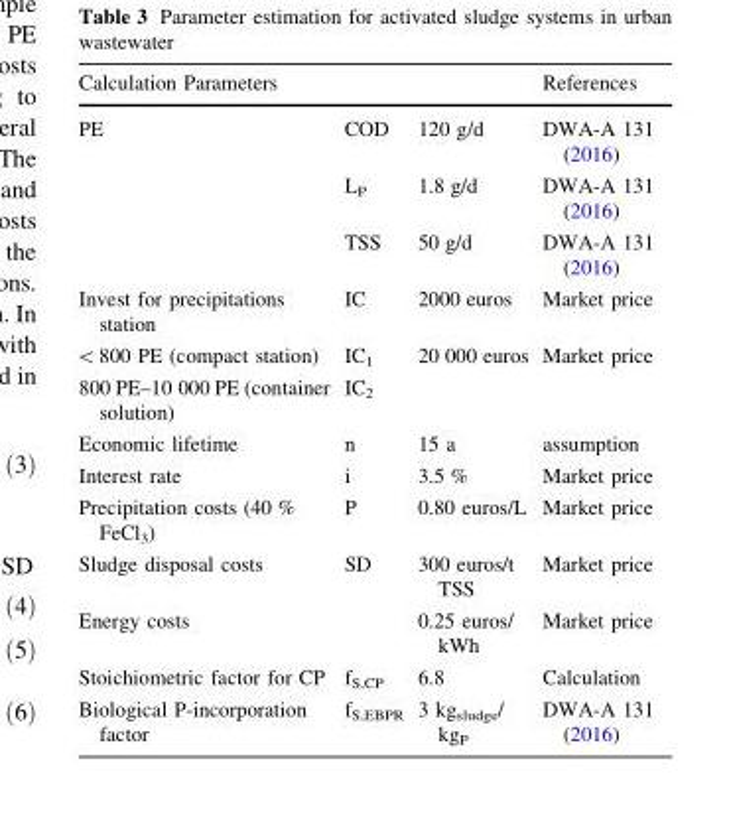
<table><thead><tr><td>Calculation Parameters</td><td></td><td></td><td>References</td></tr></thead><tbody><tr><td rowspan="3">PE</td><td>COD</td><td>120 g/d</td><td>DWA-A 131 (2016)</td></tr><tr><td>L<sub>P</sub></td><td>1.8 g/d</td><td>DWA-A 131 (2016)</td></tr><tr><td>TSS</td><td>50 g/d</td><td>DWA-A 131 (2016)</td></tr><tr><td>Invest for precipitations station</td><td>IC</td><td>2000 euros</td><td>Market price</td></tr><tr><td>&lt;800 PE (compact station)</td><td>IC<sub>1</sub></td><td>20 000 euros</td><td>Market price</td></tr><tr><td>800 PE–10 000 PE (container solution)</td><td>IC<sub>2</sub></td><td></td><td></td></tr><tr><td>Economic lifetime</td><td>n</td><td>15 a</td><td>assumption</td></tr><tr><td>Interest rate</td><td>i</td><td>3.5 %</td><td>Market price</td></tr><tr><td>Precipitation costs (40 % FeCl<sub>3</sub>)</td><td>P</td><td>0.80 euros/L</td><td>Market price</td></tr><tr><td>Sludge disposal costs</td><td>SD</td><td>300 euros/t TSS</td><td>Market price</td></tr><tr><td>Energy costs</td><td></td><td>0.25 euros/ kWh</td><td>Market price</td></tr><tr><td>Stoichiometric factor for CP</td><td>f<sub>S,CP</sub></td><td>6.8</td><td>Calculation</td></tr><tr><td>Biological P-incorporation factor</td><td>f<sub>S,EBPR</sub></td><td>3 kg<sub>sludge</sub>/ kg<sub>P</sub></td><td>DWA-A 131 (2016)</td></tr></tbody></table>